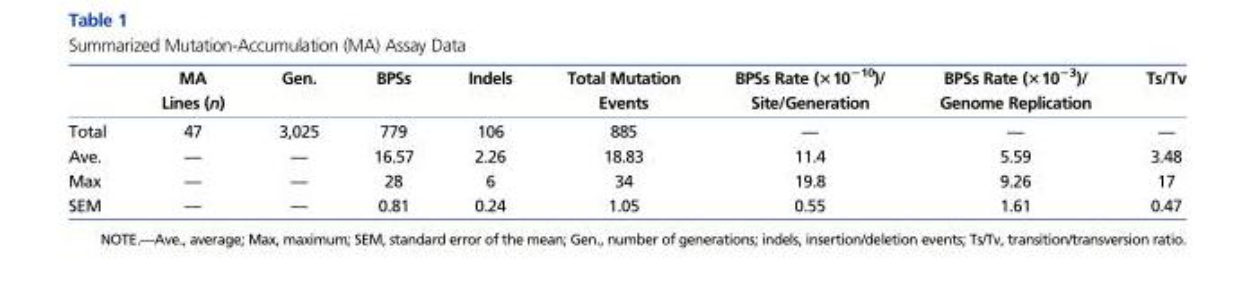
<table><thead><tr><td></td><td>MA Lines (n)</td><td>Gen.</td><td>BPSs</td><td>Indels</td><td>Total Mutation Events</td><td>BPSs Rate (×10<sup>−10</sup>)/ Site/Generation</td><td>BPSs Rate (×10<sup>−3</sup>)/ Genome Replication</td><td>Ts/Tv</td></tr></thead><tbody><tr><td>Total</td><td>47</td><td>3,025</td><td>779</td><td>106</td><td>885</td><td>—</td><td>—</td><td>—</td></tr><tr><td>Ave.</td><td>—</td><td>—</td><td>16.57</td><td>2.26</td><td>18.83</td><td>11.4</td><td>5.59</td><td>3.48</td></tr><tr><td>Max</td><td>—</td><td>—</td><td>28</td><td>6</td><td>34</td><td>19.8</td><td>9.26</td><td>17</td></tr><tr><td>SEM</td><td>—</td><td>—</td><td>0.81</td><td>0.24</td><td>1.05</td><td>0.55</td><td>1.61</td><td>0.47</td></tr></tbody></table>